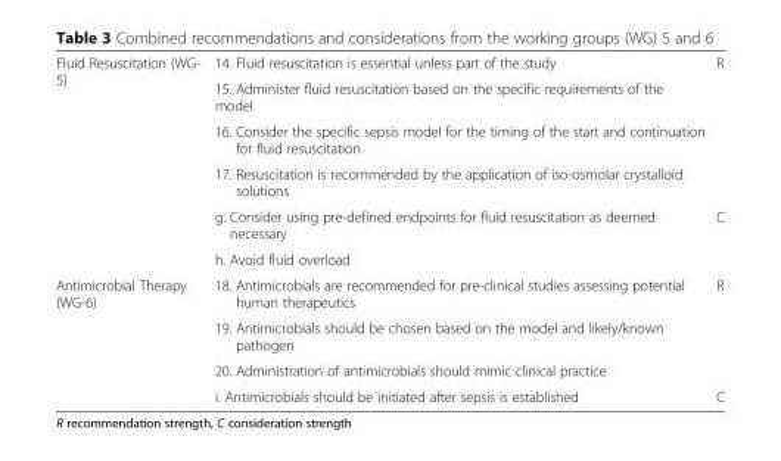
<table><tbody><tr><td rowspan="6">Fluid Resuscitation (WG- 5)</td><td>14. Fluid resuscitation is essential unless part of the study</td><td rowspan="4">R</td></tr><tr><td>15. Administer fluid resuscitation based on the specific requirements of the model</td></tr><tr><td>16. Consider the specific sepsis model for the timing of the start and continuation for fluid resuscitation</td></tr><tr><td>17. Resuscitation is recommended by the application of iso-osmolar crystalloid solutions</td></tr><tr><td>g. Consider using pre-defined endpoints for fluid resuscitation as deemed necessary</td><td rowspan="2">C</td></tr><tr><td>h. Avoid fluid overload</td></tr><tr><td rowspan="4">Antimicrobial Therapy (WG-6)</td><td>18. Antimicrobials are recommended for pre-clinical studies assessing potential human therapeutics</td><td rowspan="3">R</td></tr><tr><td>19. Antimicrobials should be chosen based on the model and likely/known pathogen</td></tr><tr><td>20. Administration of antimicrobials should mimic clinical practice</td></tr><tr><td>i. Antimicrobials should be initiated after sepsis is established</td><td>C</td></tr></tbody></table>